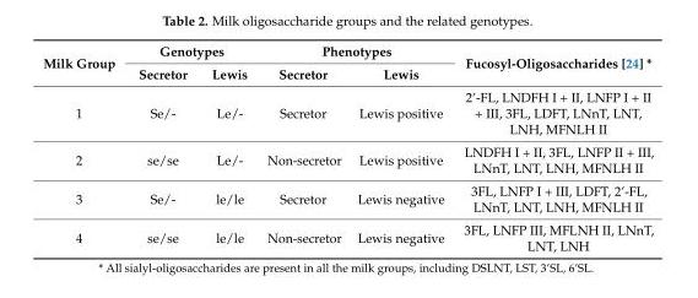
<table><thead><tr><td rowspan="2">Milk Group</td><td colspan="2">Genotypes</td><td colspan="2">Phenotypes</td><td rowspan="2">Fucosyl-Oligosaccharides [24] *</td></tr><tr><td>Secretor</td><td>Lewis</td><td>Secretor</td><td>Lewis</td></tr></thead><tbody><tr><td>1</td><td>Se/-</td><td>Le/-</td><td>Secretor</td><td>Lewis positive</td><td>2’-FL, LNDFH I + II, LNFP I + II + III, 3FL, LDFT, LNnT, LNT, LNH, MFNLH II</td></tr><tr><td>2</td><td>se/se</td><td>Le/-</td><td>Non-secretor</td><td>Lewis positive</td><td>LNDFH I + II, 3FL, LNFP II + III, LNnT, LNT, LNH, MFNLH II</td></tr><tr><td>3</td><td>Se/-</td><td>le/le</td><td>Secretor</td><td>Lewis negative</td><td>3FL, LNFP I + III, LDFT, 2’-FL, LNnT, LNT, LNH, MFNLH II</td></tr><tr><td>4</td><td>se/se</td><td>le/le</td><td>Non-secretor</td><td>Lewis negative</td><td>3FL, LNFP III, MFLNH II, LNnT, LNT, LNH</td></tr></tbody></table>